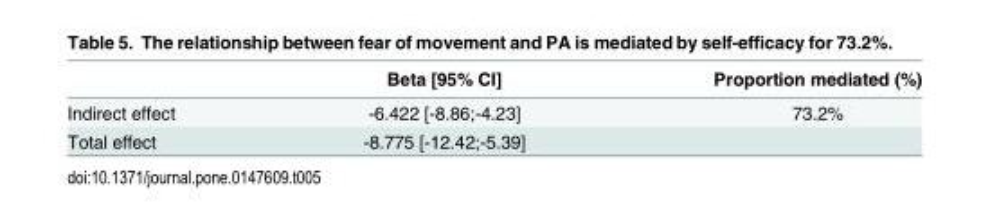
<table><thead><tr><td></td><td>Beta [95% CI]</td><td>Proportion mediated (%)</td></tr></thead><tbody><tr><td>Indirect effect</td><td>-6.422 [-8.86;-4.23]</td><td>73.2%</td></tr><tr><td>Total effect</td><td>-8.775 [-12.42;-5.39]</td><td></td></tr></tbody></table>